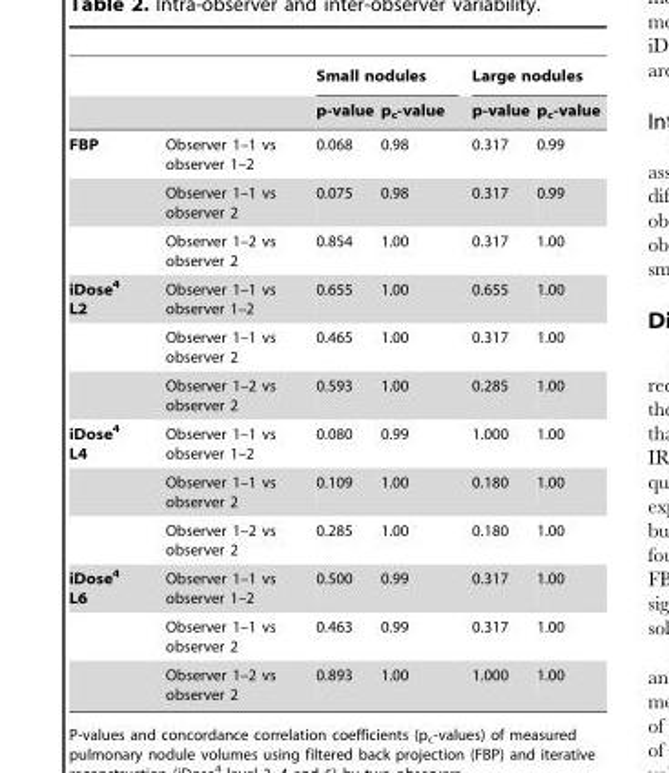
<table><thead><tr><td rowspan="2"></td><td rowspan="2"></td><td colspan="2">Small nodules</td><td colspan="2">Large nodules</td></tr><tr><td>p-value</td><td>p<sub>c</sub>-value</td><td>p-value</td><td>p<sub>c</sub>-value</td></tr></thead><tbody><tr><td rowspan="3">FBP</td><td>Observer 1–1 vs observer 1–2</td><td>0.068</td><td>0.98</td><td>0.317</td><td>0.99</td></tr><tr><td>Observer 1–1 vs observer 2</td><td>0.075</td><td>0.98</td><td>0.317</td><td>0.99</td></tr><tr><td>Observer 1–2 vs observer 2</td><td>0.854</td><td>1.00</td><td>0.317</td><td>1.00</td></tr><tr><td rowspan="3">iDose<sup>4</sup> L2</td><td>Observer 1–1 vs observer 1–2</td><td>0.655</td><td>1.00</td><td>0.655</td><td>1.00</td></tr><tr><td>Observer 1–1 vs observer 2</td><td>0.465</td><td>1.00</td><td>0.317</td><td>1.00</td></tr><tr><td>Observer 1–2 vs observer 2</td><td>0.593</td><td>1.00</td><td>0.285</td><td>1.00</td></tr><tr><td rowspan="3">iDose<sup>4</sup> L4</td><td>Observer 1–1 vs observer 1–2</td><td>0.080</td><td>0.99</td><td>1.000</td><td>1.00</td></tr><tr><td>Observer 1–1 vs observer 2</td><td>0.109</td><td>1.00</td><td>0.180</td><td>1.00</td></tr><tr><td>Observer 1–2 vs observer 2</td><td>0.285</td><td>1.00</td><td>0.180</td><td>1.00</td></tr><tr><td rowspan="3">iDose<sup>4</sup> L6</td><td>Observer 1–1 vs observer 1–2</td><td>0.500</td><td>0.99</td><td>0.317</td><td>1.00</td></tr><tr><td>Observer 1–1 vs observer 2</td><td>0.463</td><td>0.99</td><td>0.317</td><td>1.00</td></tr><tr><td>Observer 1–2 vs observer 2</td><td>0.893</td><td>1.00</td><td>1.000</td><td>1.00</td></tr></tbody></table>